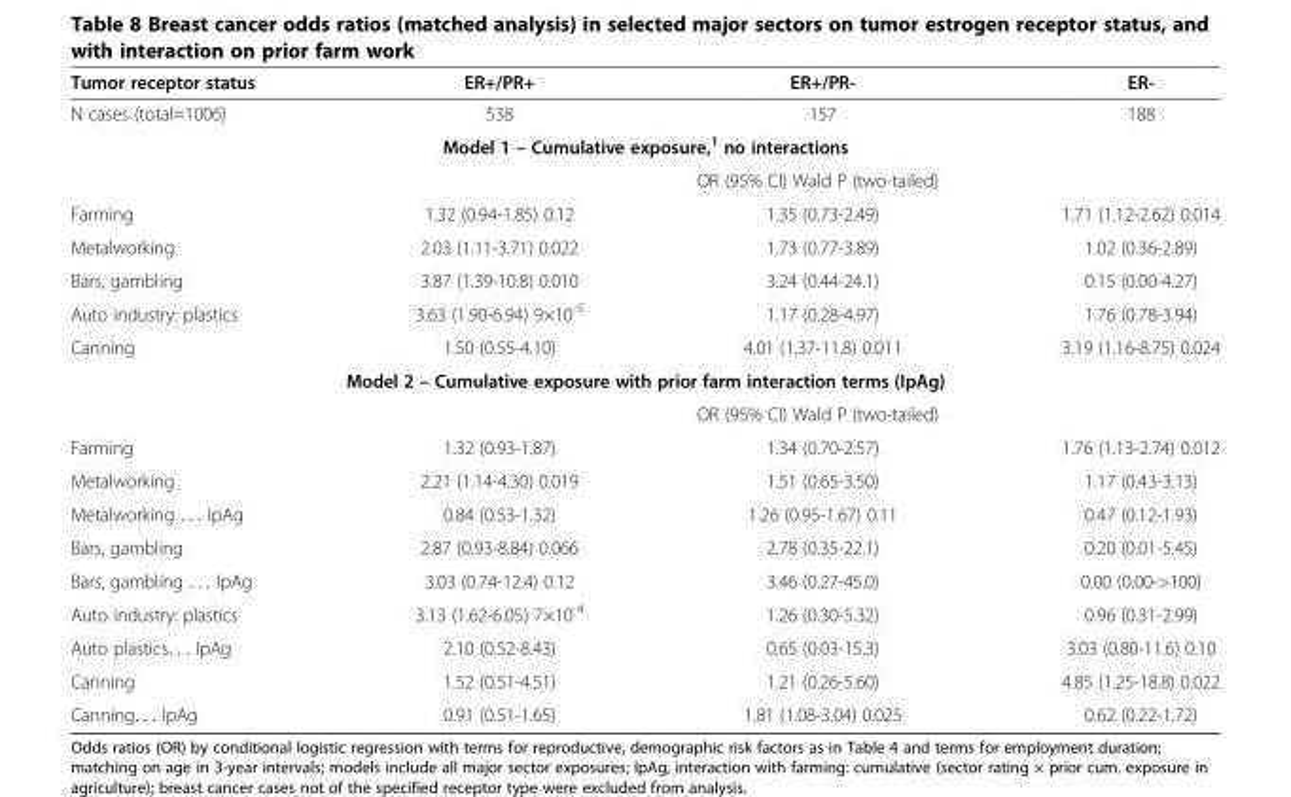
<table><thead><tr><td>Tumor receptor status</td><td>ER+/PR+</td><td>ER+/PR-</td><td>ER-</td></tr></thead><tbody><tr><td>N cases (total=1006)</td><td>538</td><td>157</td><td>188</td></tr><tr><td colspan="4">Model 1 – Cumulative exposure,<sup>1</sup> no interactions</td></tr><tr><td></td><td colspan="3">OR (95% CI) Wald P (two-tailed)</td></tr><tr><td>Farming</td><td>1.32 (0.94-1.85) 0.12</td><td>1.35 (0.73-2.49)</td><td>1.71 (1.12-2.62) 0.014</td></tr><tr><td>Metalworking</td><td>2.03 (1.11-3.71) 0.022</td><td>1.73 (0.77-3.89)</td><td>1.02 (0.36-2.89)</td></tr><tr><td>Bars, gambling</td><td>3.87 (1.39-10.8) 0.010</td><td>3.24 (0.44-24.1)</td><td>0.15 (0.00-4.27)</td></tr><tr><td>Auto industry: plastics</td><td>3.63 (1.90-6.94) 9×10<sup>-5</sup></td><td>1.17 (0.28-4.97)</td><td>1.76 (0.78-3.94)</td></tr><tr><td>Canning</td><td>1.50 (0.55-4.10)</td><td>4.01 (1.37-11.8) 0.011</td><td>3.19 (1.16-8.75) 0.024</td></tr><tr><td colspan="4">Model 2 – Cumulative exposure with prior farm interaction terms (IpAg)</td></tr><tr><td></td><td colspan="3">OR (95% CI) Wald P (two-tailed)</td></tr><tr><td>Farming</td><td>1.32 (0.93-1.87)</td><td>1.34 (0.70-2.57)</td><td>1.76 (1.13-2.74) 0.012</td></tr><tr><td>Metalworking</td><td>2.21 (1.14-4.30) 0.019</td><td>1.51 (0.65-3.50)</td><td>1.17 (0.43-3.13)</td></tr><tr><td>Metalworking . . . IpAg</td><td>0.84 (0.53-1.32)</td><td>1.26 (0.95-1.67) 0.11</td><td>0.47 (0.12-1.93)</td></tr><tr><td>Bars, gambling</td><td>2.87 (0.93-8.84) 0.066</td><td>2.78 (0.35-22.1)</td><td>0.20 (0.01-5.45)</td></tr><tr><td>Bars, gambling . . . IpAg</td><td>3.03 (0.74-12.4) 0.12</td><td>3.46 (0.27-45.0)</td><td>0.00 (0.00-&gt;100)</td></tr><tr><td>Auto industry: plastics</td><td>3.13 (1.62-6.05) 7×10<sup>-4</sup></td><td>1.26 (0.30-5.32)</td><td>0.96 (0.31-2.99)</td></tr><tr><td>Auto plastics. . . IpAg</td><td>2.10 (0.52-8.43)</td><td>0.65 (0.03-15.3)</td><td>3.03 (0.80-11.6) 0.10</td></tr><tr><td>Canning</td><td>1.52 (0.51-4.51)</td><td>1.21 (0.26-5.60)</td><td>4.85 (1.25-18.8) 0.022</td></tr><tr><td>Canning. . . IpAg</td><td>0.91 (0.51-1.65)</td><td>1.81 (1.08-3.04) 0.025</td><td>0.62 (0.22-1.72)</td></tr></tbody></table>